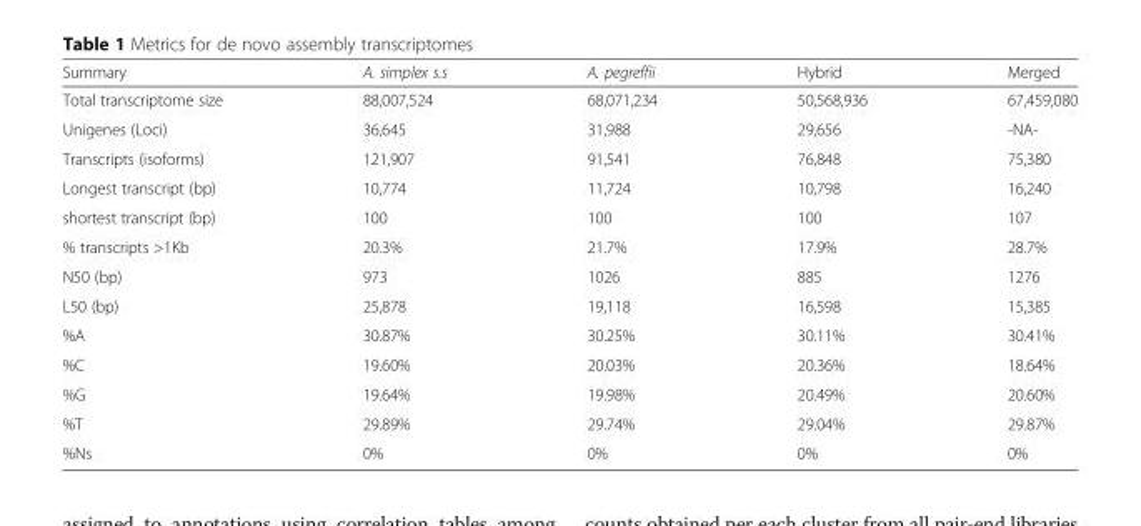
<table><thead><tr><td>Summary</td><td>A. simplex s.s</td><td>A. pegreffii</td><td>Hybrid</td><td>Merged</td></tr></thead><tbody><tr><td>Total transcriptome size</td><td>88,007,524</td><td>68,071,234</td><td>50,568,936</td><td>67,459,080</td></tr><tr><td>Unigenes (Loci)</td><td>36,645</td><td>31,988</td><td>29,656</td><td>-NA-</td></tr><tr><td>Transcripts (isoforms)</td><td>121,907</td><td>91,541</td><td>76,848</td><td>75,380</td></tr><tr><td>Longest transcript (bp)</td><td>10,774</td><td>11,724</td><td>10,798</td><td>16,240</td></tr><tr><td>shortest transcript (bp)</td><td>100</td><td>100</td><td>100</td><td>107</td></tr><tr><td>% transcripts &gt;1Kb</td><td>20.3%</td><td>21.7%</td><td>17.9%</td><td>28.7%</td></tr><tr><td>N50 (bp)</td><td>973</td><td>1026</td><td>885</td><td>1276</td></tr><tr><td>L50 (bp)</td><td>25,878</td><td>19,118</td><td>16,598</td><td>15,385</td></tr><tr><td>%A</td><td>30.87%</td><td>30.25%</td><td>30.11%</td><td>30.41%</td></tr><tr><td>%C</td><td>19.60%</td><td>20.03%</td><td>20.36%</td><td>18.64%</td></tr><tr><td>%G</td><td>19.64%</td><td>19.98%</td><td>20.49%</td><td>20.60%</td></tr><tr><td>%T</td><td>29.89%</td><td>29.74%</td><td>29.04%</td><td>29.87%</td></tr><tr><td>%Ns</td><td>0%</td><td>0%</td><td>0%</td><td>0%</td></tr></tbody></table>